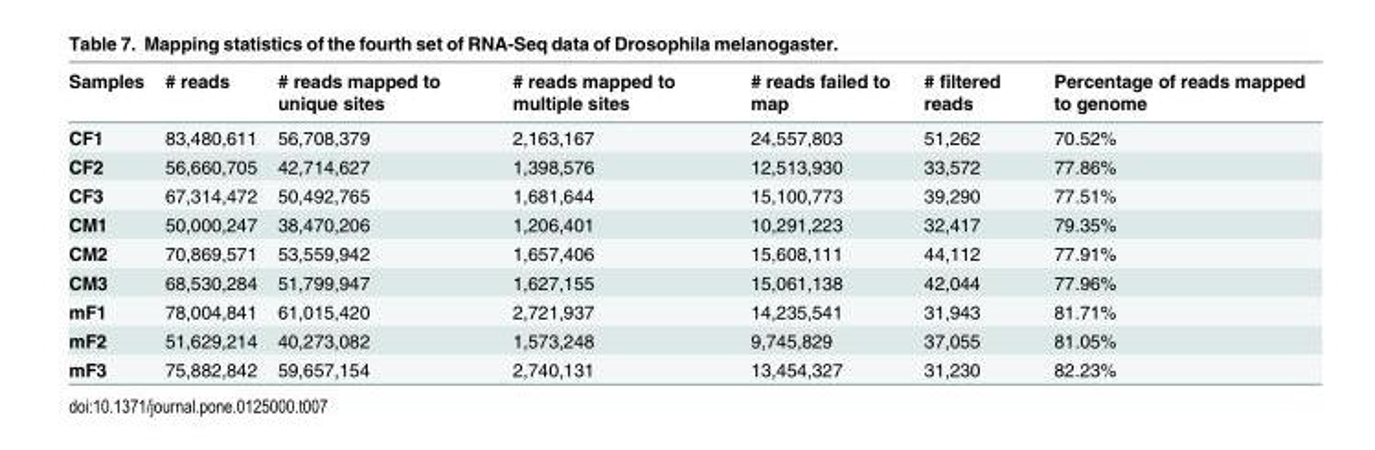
<table><thead><tr><td>Samples</td><td># reads</td><td># reads mapped to unique sites</td><td># reads mapped to multiple sites</td><td># reads failed to map</td><td># filtered reads</td><td>Percentage of reads mapped to genome</td></tr></thead><tbody><tr><td>CF1</td><td>83,480,611</td><td>56,708,379</td><td>2,163,167</td><td>24,557,803</td><td>51,262</td><td>70.52%</td></tr><tr><td>CF2</td><td>56,660,705</td><td>42,714,627</td><td>1,398,576</td><td>12,513,930</td><td>33,572</td><td>77.86%</td></tr><tr><td>CF3</td><td>67,314,472</td><td>50,492,765</td><td>1,681,644</td><td>15,100,773</td><td>39,290</td><td>77.51%</td></tr><tr><td>CM1</td><td>50,000,247</td><td>38,470,206</td><td>1,206,401</td><td>10,291,223</td><td>32,417</td><td>79.35%</td></tr><tr><td>CM2</td><td>70,869,571</td><td>53,559,942</td><td>1,657,406</td><td>15,608,111</td><td>44,112</td><td>77.91%</td></tr><tr><td>CM3</td><td>68,530,284</td><td>51,799,947</td><td>1,627,155</td><td>15,061,138</td><td>42,044</td><td>77.96%</td></tr><tr><td>mF1</td><td>78,004,841</td><td>61,015,420</td><td>2,721,937</td><td>14,235,541</td><td>31,943</td><td>81.71%</td></tr><tr><td>mF2</td><td>51,629,214</td><td>40,273,082</td><td>1,573,248</td><td>9,745,829</td><td>37,055</td><td>81.05%</td></tr><tr><td>mF3</td><td>75,882,842</td><td>59,657,154</td><td>2,740,131</td><td>13,454,327</td><td>31,230</td><td>82.23%</td></tr></tbody></table>